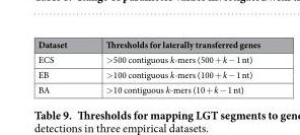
<table><thead><tr><td>Dataset</td><td>Thresholds for laterally transferred genes</td></tr></thead><tbody><tr><td>ECS</td><td>&gt; 500 contiguous k-mers (500 + k − 1 nt)</td></tr><tr><td>EB</td><td>&gt; 100 contiguous k-mers (100 + k − 1 nt)</td></tr><tr><td>BA</td><td>&gt; 10 contiguous k-mers (10 + k − 1 nt)</td></tr></tbody></table>